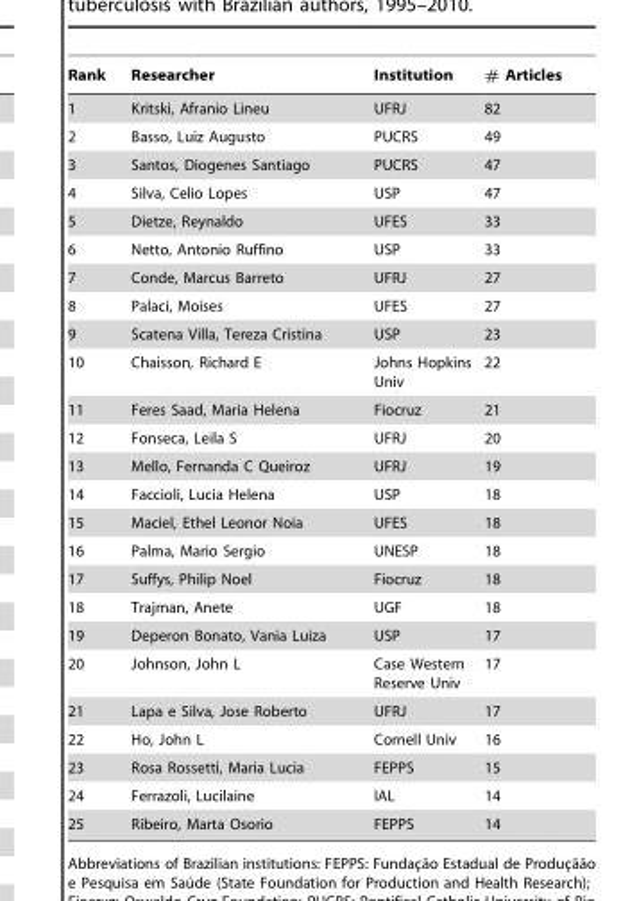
<table><thead><tr><td>Rank</td><td>Researcher</td><td>Institution</td><td># Articles</td></tr></thead><tbody><tr><td>1</td><td>Kritski, Afranio Lineu</td><td>UFRJ</td><td>82</td></tr><tr><td>2</td><td>Basso, Luiz Augusto</td><td>PUCRS</td><td>49</td></tr><tr><td>3</td><td>Santos, Diogenes Santiago</td><td>PUCRS</td><td>47</td></tr><tr><td>4</td><td>Silva, Celio Lopes</td><td>USP</td><td>47</td></tr><tr><td>5</td><td>Dietze, Reynaldo</td><td>UFES</td><td>33</td></tr><tr><td>6</td><td>Netto, Antonio Ruffino</td><td>USP</td><td>33</td></tr><tr><td>7</td><td>Conde, Marcus Barreto</td><td>UFRJ</td><td>27</td></tr><tr><td>8</td><td>Palaci, Moises</td><td>UFES</td><td>27</td></tr><tr><td>9</td><td>Scatena Villa, Tereza Cristina</td><td>USP</td><td>23</td></tr><tr><td>10</td><td>Chaisson, Richard E</td><td>Johns Hopkins Univ</td><td>22</td></tr><tr><td>11</td><td>Feres Saad, Maria Helena</td><td>Fiocruz</td><td>21</td></tr><tr><td>12</td><td>Fonseca, Leila S</td><td>UFRJ</td><td>20</td></tr><tr><td>13</td><td>Mello, Fernanda C Queiroz</td><td>UFRJ</td><td>19</td></tr><tr><td>14</td><td>Faccioli, Lucia Helena</td><td>USP</td><td>18</td></tr><tr><td>15</td><td>Maciel, Ethel Leonor Noia</td><td>UFES</td><td>18</td></tr><tr><td>16</td><td>Palma, Mario Sergio</td><td>UNESP</td><td>18</td></tr><tr><td>17</td><td>Suffys, Philip Noel</td><td>Fiocruz</td><td>18</td></tr><tr><td>18</td><td>Trajman, Anete</td><td>UGF</td><td>18</td></tr><tr><td>19</td><td>Deperon Bonato, Vania Luiza</td><td>USP</td><td>17</td></tr><tr><td>20</td><td>Johnson, John L</td><td>Case Western Reserve Univ</td><td>17</td></tr><tr><td>21</td><td>Lapa e Silva, Jose Roberto</td><td>UFRJ</td><td>17</td></tr><tr><td>22</td><td>Ho, John L</td><td>Cornell Univ</td><td>16</td></tr><tr><td>23</td><td>Rosa Rossetti, Maria Lucia</td><td>FEPPS</td><td>15</td></tr><tr><td>24</td><td>Ferrazoli, Lucilaine</td><td>IAL</td><td>14</td></tr><tr><td>25</td><td>Ribeiro, Marta Osorio</td><td>FEPPS</td><td>14</td></tr></tbody></table>